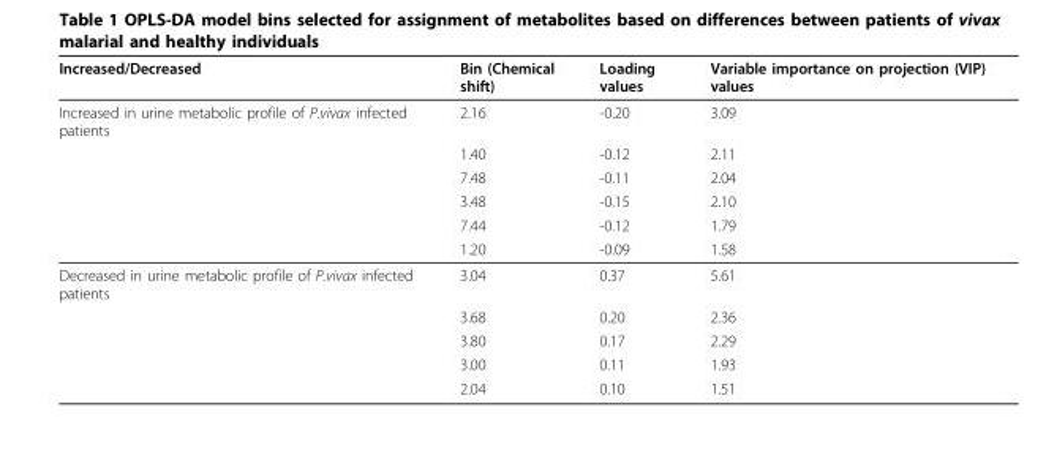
<table><thead><tr><td>Increased/Decreased</td><td>Bin (Chemical shift)</td><td>Loading values</td><td>Variable importance on projection (VIP) values</td></tr></thead><tbody><tr><td rowspan="6">Increased in urine metabolic profile of P.vivax infected patients</td><td>2.16</td><td>-0.20</td><td>3.09</td></tr><tr><td>1.40</td><td>-0.12</td><td>2.11</td></tr><tr><td>7.48</td><td>-0.11</td><td>2.04</td></tr><tr><td>3.48</td><td>-0.15</td><td>2.10</td></tr><tr><td>7.44</td><td>-0.12</td><td>1.79</td></tr><tr><td>1.20</td><td>-0.09</td><td>1.58</td></tr><tr><td rowspan="5">Decreased in urine metabolic profile of P.vivax infected patients</td><td>3.04</td><td>0.37</td><td>5.61</td></tr><tr><td>3.68</td><td>0.20</td><td>2.36</td></tr><tr><td>3.80</td><td>0.17</td><td>2.29</td></tr><tr><td>3.00</td><td>0.11</td><td>1.93</td></tr><tr><td>2.04</td><td>0.10</td><td>1.51</td></tr></tbody></table>